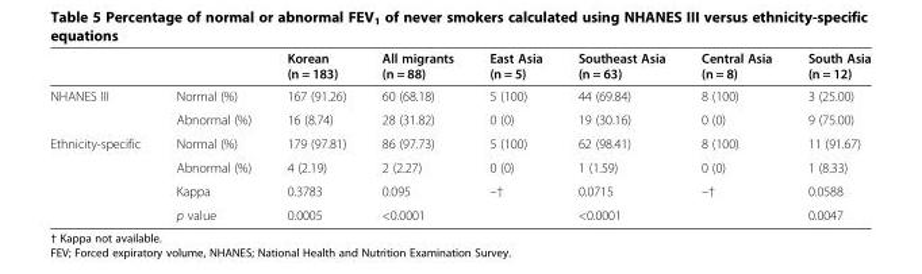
<table><thead><tr><td></td><td></td><td>Korean (n = 183)</td><td>All migrants (n = 88)</td><td>East Asia (n = 5)</td><td>Southeast Asia (n = 63)</td><td>Central Asia (n = 8)</td><td>South Asia (n = 12)</td></tr></thead><tbody><tr><td rowspan="2">NHANES III</td><td>Normal (%)</td><td>167 (91.26)</td><td>60 (68.18)</td><td>5 (100)</td><td>44 (69.84)</td><td>8 (100)</td><td>3 (25.00)</td></tr><tr><td>Abnormal (%)</td><td>16 (8.74)</td><td>28 (31.82)</td><td>0 (0)</td><td>19 (30.16)</td><td>0 (0)</td><td>9 (75.00)</td></tr><tr><td rowspan="4">Ethnicity-specific</td><td>Normal (%)</td><td>179 (97.81)</td><td>86 (97.73)</td><td>5 (100)</td><td>62 (98.41)</td><td>8 (100)</td><td>11 (91.67)</td></tr><tr><td>Abnormal (%)</td><td>4 (2.19)</td><td>2 (2.27)</td><td>0 (0)</td><td>1 (1.59)</td><td>0 (0)</td><td>1 (8.33)</td></tr><tr><td>Kappa</td><td>0.3783</td><td>0.095</td><td>–†</td><td>0.0715</td><td>–†</td><td>0.0588</td></tr><tr><td>p value</td><td>0.0005</td><td>&lt;0.0001</td><td></td><td>&lt;0.0001</td><td></td><td>0.0047</td></tr></tbody></table>